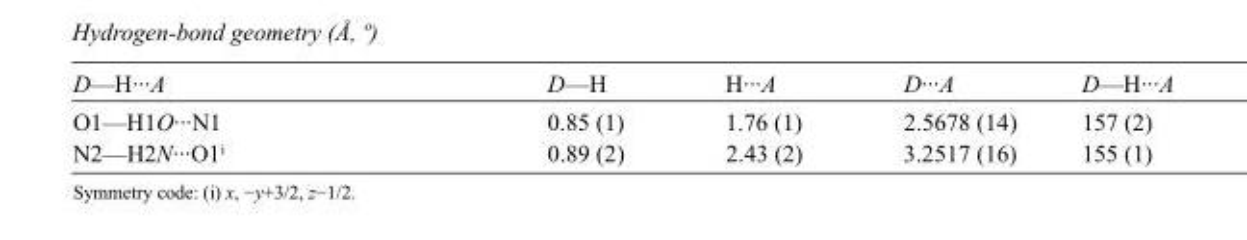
<table><tbody><tr><td>D—H···A</td><td>D—H</td><td>H···A</td><td>D···A</td><td>D—H···A</td></tr><tr><td>O1—H1O···N1</td><td>0.85 (1)</td><td>1.76 (1)</td><td>2.5678 (14)</td><td>157 (2)</td></tr><tr><td>N2—H2N···O1<sup>i</sup></td><td>0.89 (2)</td><td>2.43 (2)</td><td>3.2517 (16)</td><td>155 (1)</td></tr></tbody></table>